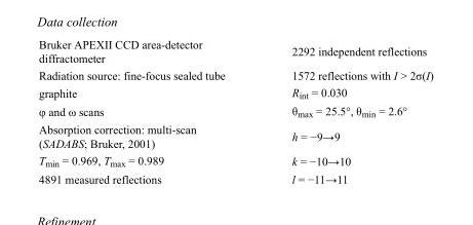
<table><tbody><tr><td>Bruker APEXII CCD area-detector diffractometer</td><td>2292 independent reflections</td></tr><tr><td>Radiation source: fine-focus sealed tube</td><td>1572 reflections with I &gt; 2σ(I)</td></tr><tr><td>graphite</td><td>R<sub>int</sub> = 0.030</td></tr><tr><td>φ and ω scans</td><td>θ<sub>max</sub> = 25.5°, θ<sub>min</sub> = 2.6°</td></tr><tr><td>Absorption correction: multi-scan (SADABS; Bruker, 2001)</td><td>h = −9→9</td></tr><tr><td>T<sub>min</sub> = 0.969, T<sub>max</sub> = 0.989</td><td>k = −10→10</td></tr><tr><td>4891 measured reflections</td><td>l = −11→11</td></tr></tbody></table>